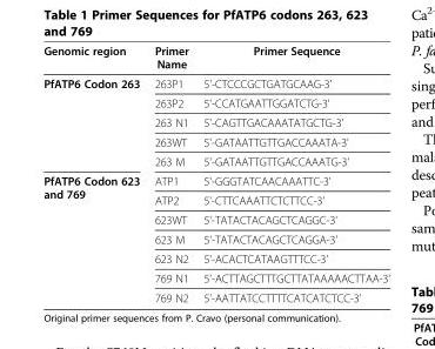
<table><thead><tr><td>Genomic region</td><td>Primer Name</td><td>Primer Sequence</td></tr></thead><tbody><tr><td rowspan="5">PfATP6 Codon 263</td><td>263P1</td><td>5&#x27;-CTCCCGCTGATGCAAG-3&#x27;</td></tr><tr><td>263P2</td><td>5&#x27;-CCATGAATTGGATCTG-3&#x27;</td></tr><tr><td>263 N1</td><td>5&#x27;-CAGTTGACAAATATGCTG-3&#x27;</td></tr><tr><td>263WT</td><td>5&#x27;-GATAATTGTTGACCAAATA-3&#x27;</td></tr><tr><td>263 M</td><td>5&#x27;-GATAATTGTTGACCAAATG-3&#x27;</td></tr><tr><td rowspan="7">PfATP6 Codon 623 and 769</td><td>ATP1</td><td>5&#x27;-GGGTATCAACAAATTC-3&#x27;</td></tr><tr><td>ATP2</td><td>5&#x27;-CTTCAAATTCTCTTCC-3&#x27;</td></tr><tr><td>623WT</td><td>5&#x27;-TATACTACAGCTCAGGC-3&#x27;</td></tr><tr><td>623 M</td><td>5&#x27;-TATACTACAGCTCAGGA-3&#x27;</td></tr><tr><td>623 N2</td><td>5&#x27;-ACACTCATAAGTTTCC-3&#x27;</td></tr><tr><td>769 N1</td><td>5&#x27;-ACTTAGCTTTGCTTATAAAAACTTAA-3&#x27;</td></tr><tr><td>769 N2</td><td>5&#x27;-AATTATCCTTTTCATCATCTCC-3&#x27;</td></tr></tbody></table>